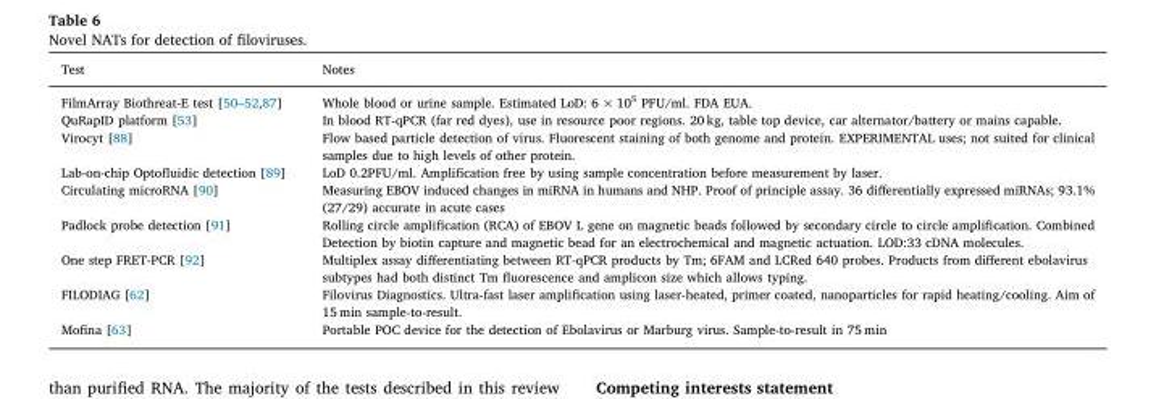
<table><thead><tr><td>Test</td><td>Notes</td></tr></thead><tbody><tr><td>FilmArray Biothreat-E test [50–52,87]</td><td>Whole blood or urine sample. Estimated LoD: 6 × 10<sup>5</sup> PFU/ml. FDA EUA.</td></tr><tr><td>QuRapID platform [53]</td><td>In blood RT-qPCR (far red dyes), use in resource poor regions. 20 kg, table top device, car alternator/battery or mains capable.</td></tr><tr><td>Virocyt [88]</td><td>Flow based particle detection of virus. Fluorescent staining of both genome and protein. EXPERIMENTAL uses; not suited for clinical samples due to high levels of other protein.</td></tr><tr><td>Lab-on-chip Optofluidic detection [89]</td><td>LoD 0.2PFU/ml. Amplification free by using sample concentration before measurement by laser.</td></tr><tr><td>Circulating microRNA [90]</td><td>Measuring EBOV induced changes in miRNA in humans and NHP. Proof of principle assay. 36 differentially expressed miRNAs; 93.1% (27/29) accurate in acute cases</td></tr><tr><td>Padlock probe detection [91]</td><td>Rolling circle amplification (RCA) of EBOV L gene on magnetic beads followed by secondary circle to circle amplification. Combined Detection by biotin capture and magnetic bead for an electrochemical and magnetic actuation. LOD:33 cDNA molecules.</td></tr><tr><td>One step FRET-PCR [92]</td><td>Multiplex assay differentiating between RT-qPCR products by Tm; 6FAM and LCRed 640 probes. Products from different ebolavirus subtypes had both distinct Tm fluorescence and amplicon size which allows typing.</td></tr><tr><td>FILODIAG [62]</td><td>Filovirus Diagnostics. Ultra-fast laser amplification using laser-heated, primer coated, nanoparticles for rapid heating/cooling. Aim of 15 min sample-to-result.</td></tr><tr><td>Mofina [63]</td><td>Portable POC device for the detection of Ebolavirus or Marburg virus. Sample-to-result in 75 min</td></tr></tbody></table>